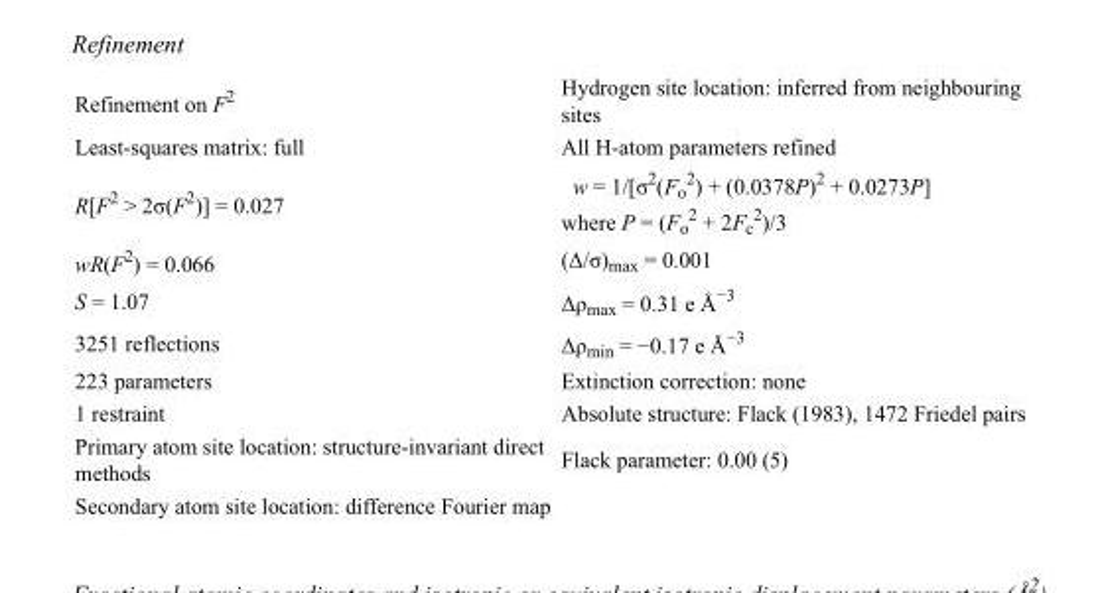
<table><tbody><tr><td>Refinement on F<sup>2</sup></td><td>Hydrogen site location: inferred from neighbouring sites</td></tr><tr><td>Least-squares matrix: full</td><td>All H-atom parameters refined</td></tr><tr><td>R[F<sup>2</sup> &gt; 2σ(F<sup>2</sup>)] = 0.027</td><td>w = 1/[σ<sup>2</sup>(F<sub>o</sub> <sup>2</sup>) + (0.0378P)<sup>2</sup> + 0.0273P] where P = (F<sub>o</sub> <sup>2</sup> + 2F<sub>c</sub> <sup>2</sup>)/3</td></tr><tr><td>wR(F<sup>2</sup>) = 0.066</td><td>(Δ/σ)<sub>max</sub> = 0.001</td></tr><tr><td>S = 1.07</td><td>Δρ<sub>max</sub> = 0.31 e Å<sup>−3</sup></td></tr><tr><td>3251 reflections</td><td>Δρ<sub>min</sub> = −0.17 e Å<sup>−3</sup></td></tr><tr><td>223 parameters</td><td>Extinction correction: none</td></tr><tr><td>1 restraint</td><td>Absolute structure: Flack (1983), 1472 Friedel pairs</td></tr><tr><td>Primary atom site location: structure-invariant direct methods</td><td>Flack parameter: 0.00 (5)</td></tr><tr><td>Secondary atom site location: difference Fourier map</td><td></td></tr></tbody></table>